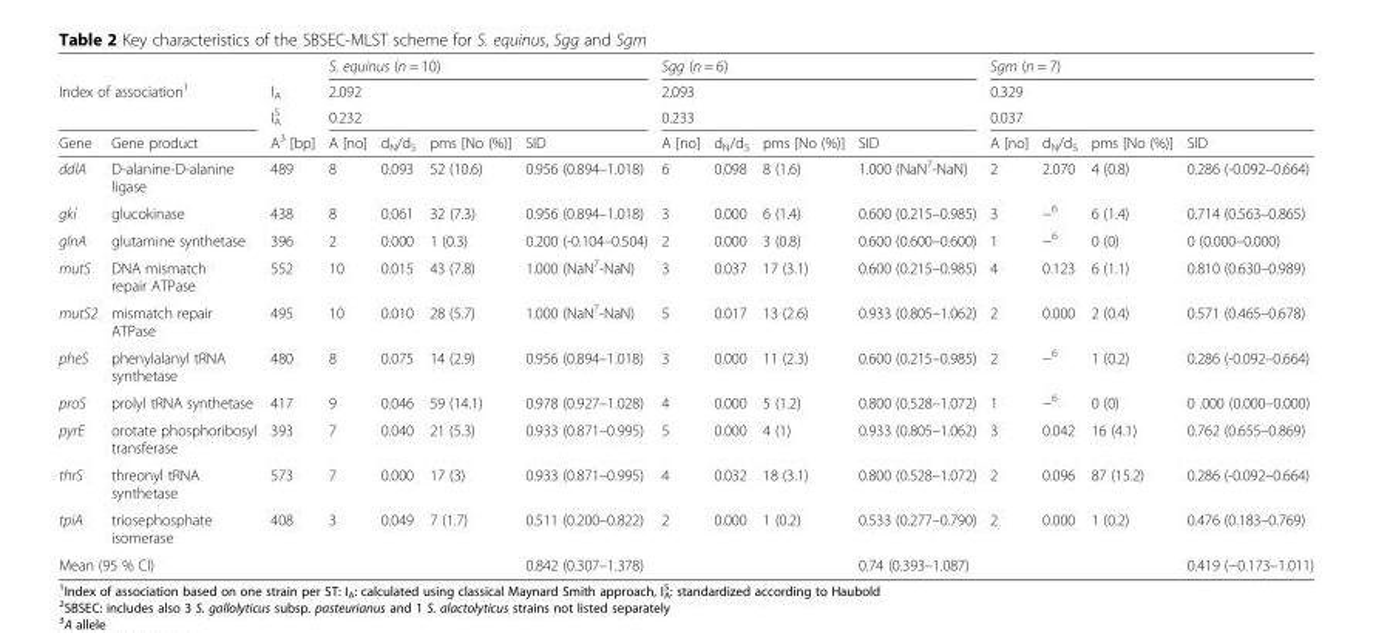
<table><thead><tr><td></td><td></td><td rowspan="4">I<sub>A</sub> I<sub>A</sub> <sup>S</sup> A<sup>3</sup> [bp]</td><td rowspan="3" colspan="4">S. equinus (n = 10) 2.092 0.232</td><td rowspan="3" colspan="4">Sgg (n = 6) 2.093 0.233</td><td rowspan="3" colspan="4">Sgm (n = 7) 0.329 0.037</td></tr><tr><td rowspan="2" colspan="2">Index of association<sup>1</sup></td></tr><tr></tr><tr><td>Gene</td><td>Gene product</td><td>A [no]</td><td>d<sub>N</sub>/d<sub>S</sub></td><td>pms [No (%)]</td><td>SID</td><td>A [no]</td><td>d<sub>N</sub>/d<sub>S</sub></td><td>pms [No (%)]</td><td>SID</td><td>A [no]</td><td>d<sub>N</sub>/d<sub>S</sub></td><td>pms [No (%)]</td><td>SID</td></tr></thead><tbody><tr><td>ddlA</td><td>D-alanine-D-alanine ligase</td><td>489</td><td>8</td><td>0.093</td><td>52 (10.6)</td><td>0.956 (0.894–1.018)</td><td>6</td><td>0.098</td><td>8 (1.6)</td><td>1.000 (NaN<sup>7</sup>-NaN)</td><td>2</td><td>2.070</td><td>4 (0.8)</td><td>0.286 (-0.092–0.664)</td></tr><tr><td>gki</td><td>glucokinase</td><td>438</td><td>8</td><td>0.061</td><td>32 (7.3)</td><td>0.956 (0.894–1.018)</td><td>3</td><td>0.000</td><td>6 (1.4)</td><td>0.600 (0.215–0.985)</td><td>3</td><td>−<sup>6</sup></td><td>6 (1.4)</td><td>0.714 (0.563–0.865)</td></tr><tr><td>glnA</td><td>glutamine synthetase</td><td>396</td><td>2</td><td>0.000</td><td>1 (0.3)</td><td>0.200 (-0.104–0.504)</td><td>2</td><td>0.000</td><td>3 (0.8)</td><td>0.600 (0.600–0.600)</td><td>1</td><td>−<sup>6</sup></td><td>0 (0)</td><td>0 (0.000–0.000)</td></tr><tr><td>mutS</td><td>DNA mismatch repair ATPase</td><td>552</td><td>10</td><td>0.015</td><td>43 (7.8)</td><td>1.000 (NaN<sup>7</sup>-NaN)</td><td>3</td><td>0.037</td><td>17 (3.1)</td><td>0.600 (0.215–0.985)</td><td>4</td><td>0.123</td><td>6 (1.1)</td><td>0.810 (0.630–0.989)</td></tr><tr><td>mutS2</td><td>mismatch repair ATPase</td><td>495</td><td>10</td><td>0.010</td><td>28 (5.7)</td><td>1.000 (NaN<sup>7</sup>-NaN)</td><td>5</td><td>0.017</td><td>13 (2.6)</td><td>0.933 (0.805–1.062)</td><td>2</td><td>0.000</td><td>2 (0.4)</td><td>0.571 (0.465–0.678)</td></tr><tr><td>pheS</td><td>phenylalanyl tRNA synthetase</td><td>480</td><td>8</td><td>0.075</td><td>14 (2.9)</td><td>0.956 (0.894–1.018)</td><td>3</td><td>0.000</td><td>11 (2.3)</td><td>0.600 (0.215–0.985)</td><td>2</td><td>−<sup>6</sup></td><td>1 (0.2)</td><td>0.286 (-0.092–0.664)</td></tr><tr><td>proS</td><td>prolyl tRNA synthetase</td><td>417</td><td>9</td><td>0.046</td><td>59 (14.1)</td><td>0.978 (0.927–1.028)</td><td>4</td><td>0.000</td><td>5 (1.2)</td><td>0.800 (0.528–1.072)</td><td>1</td><td>−<sup>6</sup></td><td>0 (0)</td><td>0 .000 (0.000–0.000)</td></tr><tr><td>pyrE</td><td>orotate phosphoribosyl transferase</td><td>393</td><td>7</td><td>0.040</td><td>21 (5.3)</td><td>0.933 (0.871–0.995)</td><td>5</td><td>0.000</td><td>4 (1)</td><td>0.933 (0.805–1.062)</td><td>3</td><td>0.042</td><td>16 (4.1)</td><td>0.762 (0.655–0.869)</td></tr><tr><td>thrS</td><td>threonyl tRNA synthetase</td><td>573</td><td>7</td><td>0.000</td><td>17 (3)</td><td>0.933 (0.871–0.995)</td><td>4</td><td>0.032</td><td>18 (3.1)</td><td>0.800 (0.528–1.072)</td><td>2</td><td>0.096</td><td>87 (15.2)</td><td>0.286 (-0.092–0.664)</td></tr><tr><td>tpiA</td><td>triosephosphate isomerase</td><td>408</td><td>3</td><td>0.049</td><td>7 (1.7)</td><td>0.511 (0.200–0.822)</td><td>2</td><td>0.000</td><td>1 (0.2)</td><td>0.533 (0.277–0.790)</td><td>2</td><td>0.000</td><td>1 (0.2)</td><td>0.476 (0.183–0.769)</td></tr><tr><td colspan="2">Mean (95 % CI)</td><td></td><td></td><td></td><td></td><td>0.842 (0.307–1.378)</td><td></td><td></td><td></td><td>0.74 (0.393–1.087)</td><td></td><td></td><td></td><td>0.419 (−0.173–1.011)</td></tr></tbody></table>